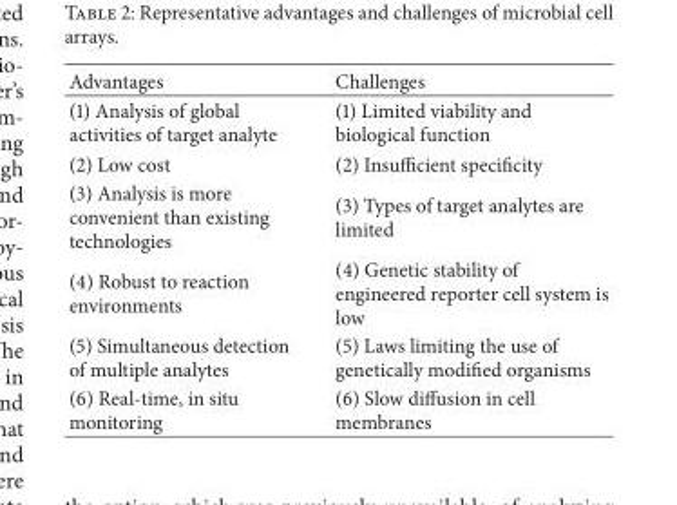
<table><thead><tr><td>Advantages</td><td>Challenges</td></tr></thead><tbody><tr><td>(1) Analysis of global activities of target analyte</td><td>(1) Limited viability and biological function</td></tr><tr><td>(2) Low cost</td><td>(2) Insufficient specificity</td></tr><tr><td>(3) Analysis is more convenient than existing technologies</td><td>(3) Types of target analytes are limited</td></tr><tr><td>(4) Robust to reaction environments</td><td>(4) Genetic stability of engineered reporter cell system is low</td></tr><tr><td>(5) Simultaneous detection of multiple analytes</td><td>(5) Laws limiting the use of genetically modified organisms</td></tr><tr><td>(6) Real-time, in situ monitoring</td><td>(6) Slow diffusion in cell membranes</td></tr></tbody></table>